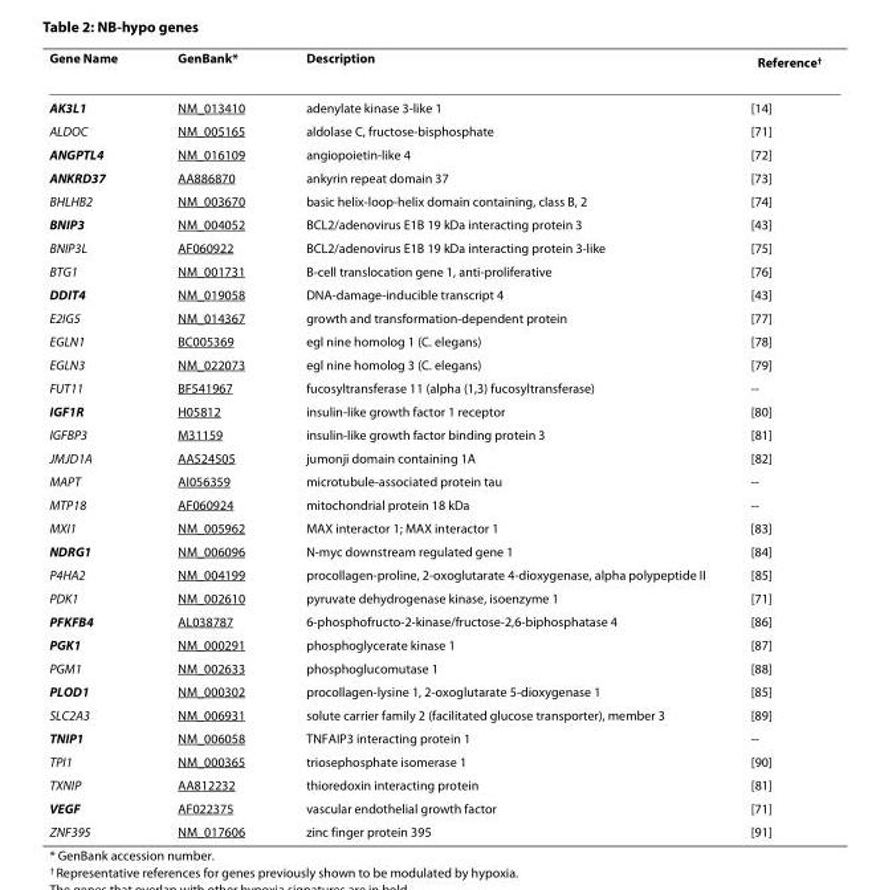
<table><thead><tr><td>Gene Name</td><td>GenBank*</td><td>Description</td><td>Reference<sup>†</sup></td></tr></thead><tbody><tr><td>AK3L1</td><td>NM_013410</td><td>adenylate kinase 3-like 1</td><td>[14]</td></tr><tr><td>ALDOC</td><td>NM_005165</td><td>aldolase C, fructose-bisphosphate</td><td>[71]</td></tr><tr><td>ANGPTL4</td><td>NM_016109</td><td>angiopoietin-like 4</td><td>[72]</td></tr><tr><td>ANKRD37</td><td>AA886870</td><td>ankyrin repeat domain 37</td><td>[73]</td></tr><tr><td>BHLHB2</td><td>NM_003670</td><td>basic helix-loop-helix domain containing, class B, 2</td><td>[74]</td></tr><tr><td>BNIP3</td><td>NM_004052</td><td>BCL2/adenovirus E1B 19 kDa interacting protein 3</td><td>[43]</td></tr><tr><td>BNIP3L</td><td>AF060922</td><td>BCL2/adenovirus E1B 19 kDa interacting protein 3-like</td><td>[75]</td></tr><tr><td>BTG1</td><td>NM_001731</td><td>B-cell translocation gene 1, anti-proliferative</td><td>[76]</td></tr><tr><td>DDIT4</td><td>NM_019058</td><td>DNA-damage-inducible transcript 4</td><td>[43]</td></tr><tr><td>E2IG5</td><td>NM_014367</td><td>growth and transformation-dependent protein</td><td>[77]</td></tr><tr><td>EGLN1</td><td>BC005369</td><td>egl nine homolog 1 (C. elegans)</td><td>[78]</td></tr><tr><td>EGLN3</td><td>NM_022073</td><td>egl nine homolog 3 (C. elegans)</td><td>[79]</td></tr><tr><td>FUT11</td><td>BF541967</td><td>fucosyltransferase 11 (alpha (1,3) fucosyltransferase)</td><td>--</td></tr><tr><td>IGF1R</td><td>H05812</td><td>insulin-like growth factor 1 receptor</td><td>[80]</td></tr><tr><td>IGFBP3</td><td>M31159</td><td>insulin-like growth factor binding protein 3</td><td>[81]</td></tr><tr><td>JMJD1A</td><td>AA524505</td><td>jumonji domain containing 1A</td><td>[82]</td></tr><tr><td>MAPT</td><td>AI056359</td><td>microtubule-associated protein tau</td><td>--</td></tr><tr><td>MTP18</td><td>AF060924</td><td>mitochondrial protein 18 kDa</td><td>--</td></tr><tr><td>MXI1</td><td>NM_005962</td><td>MAX interactor 1; MAX interactor 1</td><td>[83]</td></tr><tr><td>NDRG1</td><td>NM_006096</td><td>N-myc downstream regulated gene 1</td><td>[84]</td></tr><tr><td>P4HA2</td><td>NM_004199</td><td>procollagen-proline, 2-oxoglutarate 4-dioxygenase, alpha polypeptide II</td><td>[85]</td></tr><tr><td>PDK1</td><td>NM_002610</td><td>pyruvate dehydrogenase kinase, isoenzyme 1</td><td>[71]</td></tr><tr><td>PFKFB4</td><td>AL038787</td><td>6-phosphofructo-2-kinase/fructose-2,6-biphosphatase 4</td><td>[86]</td></tr><tr><td>PGK1</td><td>NM_000291</td><td>phosphoglycerate kinase 1</td><td>[87]</td></tr><tr><td>PGM1</td><td>NM_002633</td><td>phosphoglucomutase 1</td><td>[88]</td></tr><tr><td>PLOD1</td><td>NM_000302</td><td>procollagen-lysine 1, 2-oxoglutarate 5-dioxygenase 1</td><td>[85]</td></tr><tr><td>SLC2A3</td><td>NM_006931</td><td>solute carrier family 2 (facilitated glucose transporter), member 3</td><td>[89]</td></tr><tr><td>TNIP1</td><td>NM_006058</td><td>TNFAIP3 interacting protein 1</td><td>--</td></tr><tr><td>TPI1</td><td>NM_000365</td><td>triosephosphate isomerase 1</td><td>[90]</td></tr><tr><td>TXNIP</td><td>AA812232</td><td>thioredoxin interacting protein</td><td>[81]</td></tr><tr><td>VEGF</td><td>AF022375</td><td>vascular endothelial growth factor</td><td>[71]</td></tr><tr><td>ZNF395</td><td>NM_017606</td><td>zinc finger protein 395</td><td>[91]</td></tr></tbody></table>